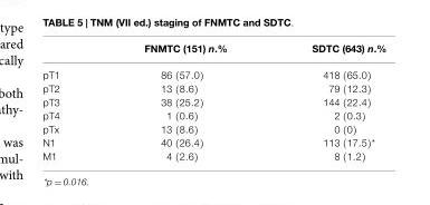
<table><thead><tr><td></td><td>FNMTC (151) n.%</td><td>SDTC (643) n.%</td></tr></thead><tbody><tr><td>pT1</td><td>86 (57.0)</td><td>418 (65.0)</td></tr><tr><td>pT2</td><td>13 (8.6)</td><td>79 (12.3)</td></tr><tr><td>pT3</td><td>38 (25.2)</td><td>144 (22.4)</td></tr><tr><td>pT4</td><td>1 (0.6)</td><td>2 (0.3)</td></tr><tr><td>pTx</td><td>13 (8.6)</td><td>0 (0)</td></tr><tr><td>N1</td><td>40 (26.4)</td><td>113 (17.5)*</td></tr><tr><td>M1</td><td>4 (2.6)</td><td>8 (1.2)</td></tr></tbody></table>